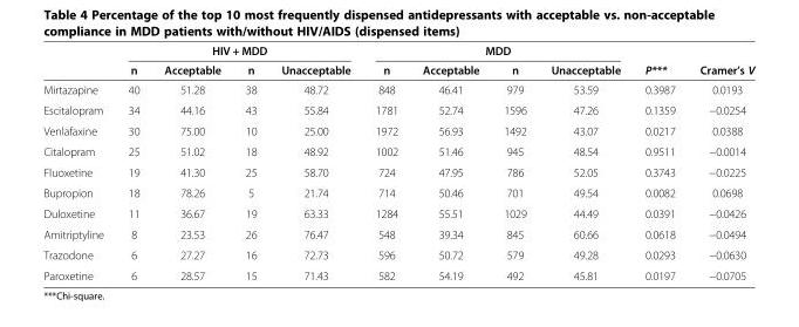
<table><thead><tr><td rowspan="2"></td><td colspan="4">HIV + MDD</td><td colspan="4">MDD</td><td rowspan="2">P***</td><td rowspan="2">Cramer’s V</td></tr><tr><td>n</td><td>Acceptable</td><td>n</td><td>Unacceptable</td><td>n</td><td>Acceptable</td><td>n</td><td>Unacceptable</td></tr></thead><tbody><tr><td>Mirtazapine</td><td>40</td><td>51.28</td><td>38</td><td>48.72</td><td>848</td><td>46.41</td><td>979</td><td>53.59</td><td>0.3987</td><td>0.0193</td></tr><tr><td>Escitalopram</td><td>34</td><td>44.16</td><td>43</td><td>55.84</td><td>1781</td><td>52.74</td><td>1596</td><td>47.26</td><td>0.1359</td><td>−0.0254</td></tr><tr><td>Venlafaxine</td><td>30</td><td>75.00</td><td>10</td><td>25.00</td><td>1972</td><td>56.93</td><td>1492</td><td>43.07</td><td>0.0217</td><td>0.0388</td></tr><tr><td>Citalopram</td><td>25</td><td>51.02</td><td>18</td><td>48.92</td><td>1002</td><td>51.46</td><td>945</td><td>48.54</td><td>0.9511</td><td>−0.0014</td></tr><tr><td>Fluoxetine</td><td>19</td><td>41.30</td><td>25</td><td>58.70</td><td>724</td><td>47.95</td><td>786</td><td>52.05</td><td>0.3743</td><td>−0.0225</td></tr><tr><td>Bupropion</td><td>18</td><td>78.26</td><td>5</td><td>21.74</td><td>714</td><td>50.46</td><td>701</td><td>49.54</td><td>0.0082</td><td>0.0698</td></tr><tr><td>Duloxetine</td><td>11</td><td>36.67</td><td>19</td><td>63.33</td><td>1284</td><td>55.51</td><td>1029</td><td>44.49</td><td>0.0391</td><td>−0.0426</td></tr><tr><td>Amitriptyline</td><td>8</td><td>23.53</td><td>26</td><td>76.47</td><td>548</td><td>39.34</td><td>845</td><td>60.66</td><td>0.0618</td><td>−0.0494</td></tr><tr><td>Trazodone</td><td>6</td><td>27.27</td><td>16</td><td>72.73</td><td>596</td><td>50.72</td><td>579</td><td>49.28</td><td>0.0293</td><td>−0.0630</td></tr><tr><td>Paroxetine</td><td>6</td><td>28.57</td><td>15</td><td>71.43</td><td>582</td><td>54.19</td><td>492</td><td>45.81</td><td>0.0197</td><td>−0.0705</td></tr></tbody></table>